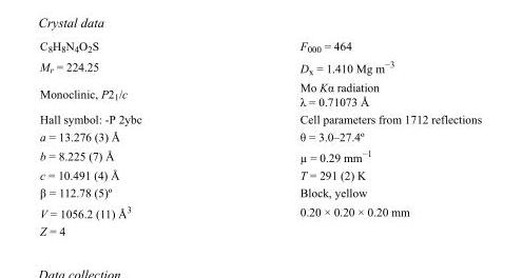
<table><tbody><tr><td>C<sub>8</sub>H<sub>8</sub>N<sub>4</sub>O<sub>2</sub>S</td><td>F000 = 464</td></tr><tr><td>M<sub>r</sub> = 224.25</td><td>D<sub>x</sub> = 1.410 Mg m<sup>−3</sup></td></tr><tr><td>Monoclinic, P2<sub>1</sub>/c</td><td>Mo Kα radiation λ = 0.71073 Å</td></tr><tr><td>Hall symbol: -P 2ybc</td><td>Cell parameters from 1712 reflections</td></tr><tr><td>a = 13.276 (3) Å</td><td>θ = 3.0–27.4º</td></tr><tr><td>b = 8.225 (7) Å</td><td>µ = 0.29 mm<sup>−1</sup></td></tr><tr><td>c = 10.491 (4) Å</td><td>T = 291 (2) K</td></tr><tr><td>β = 112.78 (5)º</td><td>Block, yellow</td></tr><tr><td>V = 1056.2 (11) Å<sup>3</sup></td><td>0.20 × 0.20 × 0.20 mm</td></tr><tr><td>Z = 4</td><td></td></tr></tbody></table>